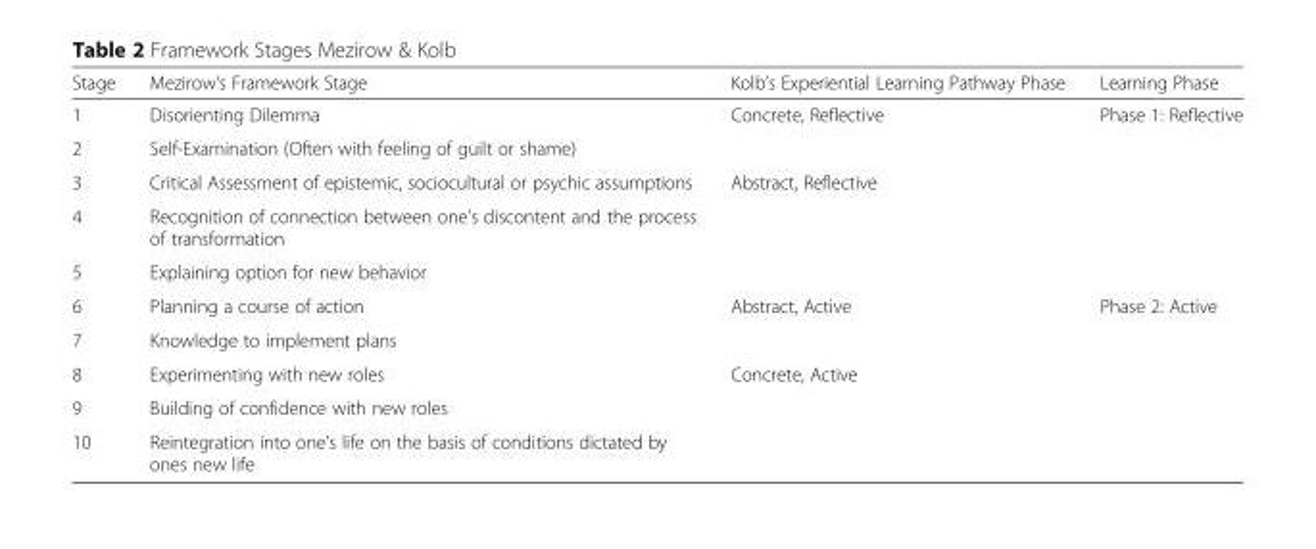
<table><thead><tr><td>Stage</td><td>Mezirow’s Framework Stage</td><td>Kolb’s Experiential Learning Pathway Phase</td><td>Learning Phase</td></tr></thead><tbody><tr><td>1</td><td>Disorienting Dilemma</td><td rowspan="2">Concrete, Reflective</td><td rowspan="5">Phase 1: Reflective</td></tr><tr><td>2</td><td>Self-Examination (Often with feeling of guilt or shame)</td></tr><tr><td>3</td><td>Critical Assessment of epistemic, sociocultural or psychic assumptions</td><td rowspan="3">Abstract, Reflective</td></tr><tr><td>4</td><td>Recognition of connection between one’s discontent and the process of transformation</td></tr><tr><td>5</td><td>Explaining option for new behavior</td></tr><tr><td>6</td><td>Planning a course of action</td><td rowspan="2">Abstract, Active</td><td rowspan="5">Phase 2: Active</td></tr><tr><td>7</td><td>Knowledge to implement plans</td></tr><tr><td>8</td><td>Experimenting with new roles</td><td rowspan="3">Concrete, Active</td></tr><tr><td>9</td><td>Building of confidence with new roles</td></tr><tr><td>10</td><td>Reintegration into one’s life on the basis of conditions dictated by ones new life</td></tr></tbody></table>